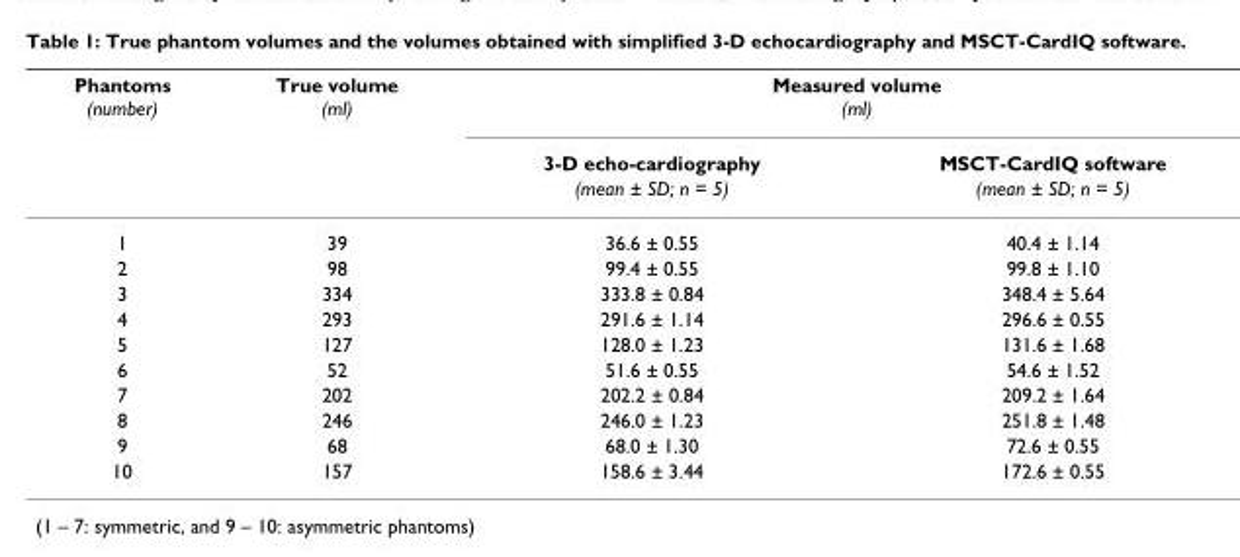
<table><thead><tr><td rowspan="3">Phantoms (number)</td><td rowspan="3">True volume (ml)</td><td colspan="2">Measured volume (ml)</td></tr><tr><td rowspan="2">3-D echo-cardiography (mean ± SD; n = 5)</td><td rowspan="2">MSCT-CardIQ software (mean ± SD; n = 5)</td></tr><tr></tr></thead><tbody><tr><td>1</td><td>39</td><td>36.6 ± 0.55</td><td>40.4 ± 1.14</td></tr><tr><td>2</td><td>98</td><td>99.4 ± 0.55</td><td>99.8 ± 1.10</td></tr><tr><td>3</td><td>334</td><td>333.8 ± 0.84</td><td>348.4 ± 5.64</td></tr><tr><td>4</td><td>293</td><td>291.6 ± 1.14</td><td>296.6 ± 0.55</td></tr><tr><td>5</td><td>127</td><td>128.0 ± 1.23</td><td>131.6 ± 1.68</td></tr><tr><td>6</td><td>52</td><td>51.6 ± 0.55</td><td>54.6 ± 1.52</td></tr><tr><td>7</td><td>202</td><td>202.2 ± 0.84</td><td>209.2 ± 1.64</td></tr><tr><td>8</td><td>246</td><td>246.0 ± 1.23</td><td>251.8 ± 1.48</td></tr><tr><td>9</td><td>68</td><td>68.0 ± 1.30</td><td>72.6 ± 0.55</td></tr><tr><td>10</td><td>157</td><td>158.6 ± 3.44</td><td>172.6 ± 0.55</td></tr></tbody></table>